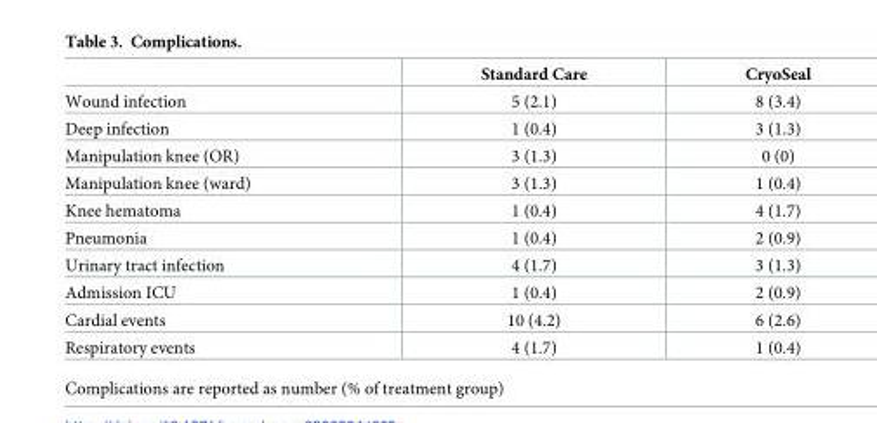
<table><thead><tr><td></td><td>Standard Care</td><td>CryoSeal</td></tr></thead><tbody><tr><td>Wound infection</td><td>5 (2.1)</td><td>8 (3.4)</td></tr><tr><td>Deep infection</td><td>1 (0.4)</td><td>3 (1.3)</td></tr><tr><td>Manipulation knee (OR)</td><td>3 (1.3)</td><td>0 (0)</td></tr><tr><td>Manipulation knee (ward)</td><td>3 (1.3)</td><td>1 (0.4)</td></tr><tr><td>Knee hematoma</td><td>1 (0.4)</td><td>4 (1.7)</td></tr><tr><td>Pneumonia</td><td>1 (0.4)</td><td>2 (0.9)</td></tr><tr><td>Urinary tract infection</td><td>4 (1.7)</td><td>3 (1.3)</td></tr><tr><td>Admission ICU</td><td>1 (0.4)</td><td>2 (0.9)</td></tr><tr><td>Cardial events</td><td>10 (4.2)</td><td>6 (2.6)</td></tr><tr><td>Respiratory events</td><td>4 (1.7)</td><td>1 (0.4)</td></tr></tbody></table>